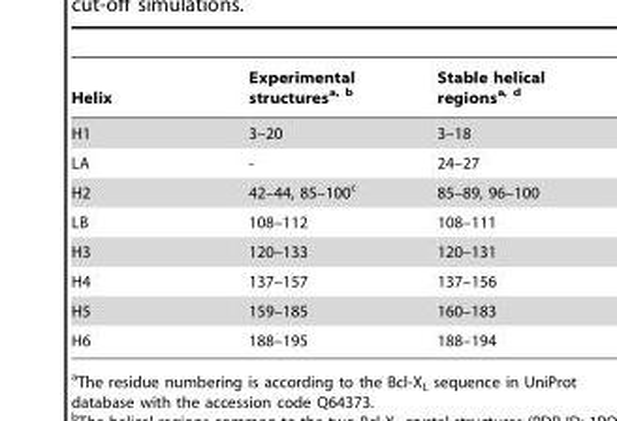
<table><thead><tr><td>Helix</td><td>Experimental structures<sup>a,</sup> b</td><td>Stable helical regions<sup>a,</sup> d</td></tr></thead><tbody><tr><td>H1</td><td>3–20</td><td>3–18</td></tr><tr><td>LA</td><td>-</td><td>24–27</td></tr><tr><td>H2</td><td>42–44, 85–100<sup>c</sup></td><td>85–89, 96–100</td></tr><tr><td>LB</td><td>108–112</td><td>108–111</td></tr><tr><td>H3</td><td>120–133</td><td>120–131</td></tr><tr><td>H4</td><td>137–157</td><td>137–156</td></tr><tr><td>H5</td><td>159–185</td><td>160–183</td></tr><tr><td>H6</td><td>188–195</td><td>188–194</td></tr></tbody></table>